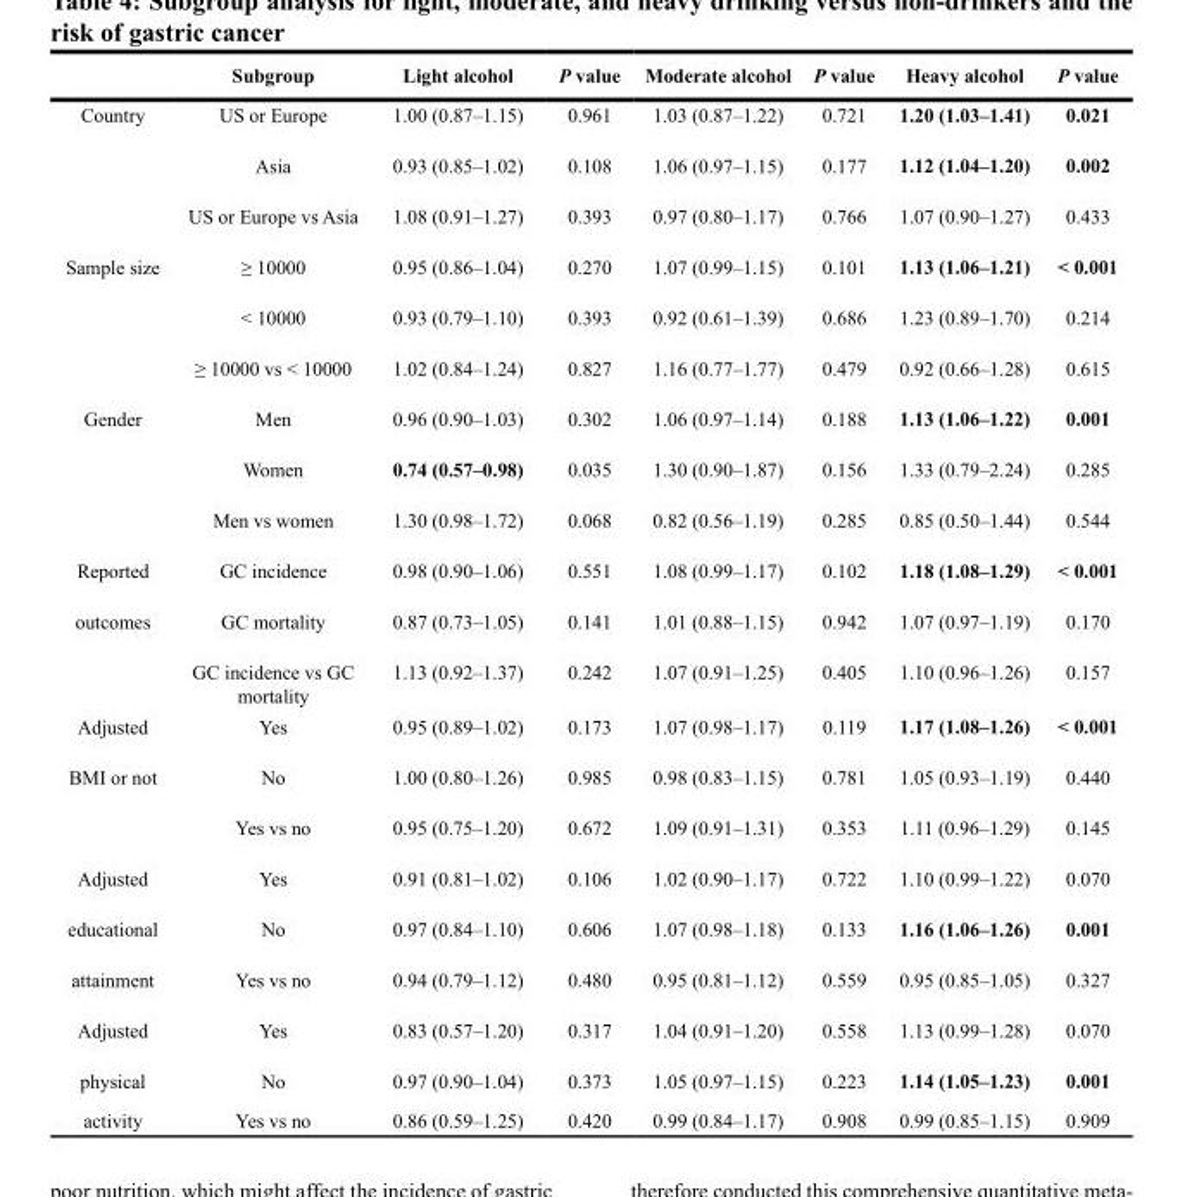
<table><thead><tr><td></td><td>Subgroup</td><td>Light alcohol</td><td>P value</td><td>Moderate alcohol</td><td>P value</td><td>Heavy alcohol</td><td>P value</td></tr></thead><tbody><tr><td rowspan="3">Country</td><td>US or Europe</td><td>1.00 (0.87–1.15)</td><td>0.961</td><td>1.03 (0.87–1.22)</td><td>0.721</td><td>1.20 (1.03–1.41)</td><td>0.021</td></tr><tr><td>Asia</td><td>0.93 (0.85–1.02)</td><td>0.108</td><td>1.06 (0.97–1.15)</td><td>0.177</td><td>1.12 (1.04–1.20)</td><td>0.002</td></tr><tr><td>US or Europe vs Asia</td><td>1.08 (0.91–1.27)</td><td>0.393</td><td>0.97 (0.80–1.17)</td><td>0.766</td><td>1.07 (0.90–1.27)</td><td>0.433</td></tr><tr><td rowspan="3">Sample size</td><td>≥ 10000</td><td>0.95 (0.86–1.04)</td><td>0.270</td><td>1.07 (0.99–1.15)</td><td>0.101</td><td>1.13 (1.06–1.21)</td><td>&lt; 0.001</td></tr><tr><td>&lt; 10000</td><td>0.93 (0.79–1.10)</td><td>0.393</td><td>0.92 (0.61–1.39)</td><td>0.686</td><td>1.23 (0.89–1.70)</td><td>0.214</td></tr><tr><td>≥ 10000 vs &lt; 10000</td><td>1.02 (0.84–1.24)</td><td>0.827</td><td>1.16 (0.77–1.77)</td><td>0.479</td><td>0.92 (0.66–1.28)</td><td>0.615</td></tr><tr><td rowspan="3">Gender</td><td>Men</td><td>0.96 (0.90–1.03)</td><td>0.302</td><td>1.06 (0.97–1.14)</td><td>0.188</td><td>1.13 (1.06–1.22)</td><td>0.001</td></tr><tr><td>Women</td><td>0.74 (0.57–0.98)</td><td>0.035</td><td>1.30 (0.90–1.87)</td><td>0.156</td><td>1.33 (0.79–2.24)</td><td>0.285</td></tr><tr><td>Men vs women</td><td>1.30 (0.98–1.72)</td><td>0.068</td><td>0.82 (0.56–1.19)</td><td>0.285</td><td>0.85 (0.50–1.44)</td><td>0.544</td></tr><tr><td>Reported</td><td>GC incidence</td><td>0.98 (0.90–1.06)</td><td>0.551</td><td>1.08 (0.99–1.17)</td><td>0.102</td><td>1.18 (1.08–1.29)</td><td>&lt; 0.001</td></tr><tr><td rowspan="2">outcomes</td><td>GC mortality</td><td>0.87 (0.73–1.05)</td><td>0.141</td><td>1.01 (0.88–1.15)</td><td>0.942</td><td>1.07 (0.97–1.19)</td><td>0.170</td></tr><tr><td>GC incidence vs GC mortality</td><td>1.13 (0.92–1.37)</td><td>0.242</td><td>1.07 (0.91–1.25)</td><td>0.405</td><td>1.10 (0.96–1.26)</td><td>0.157</td></tr><tr><td>Adjusted</td><td>Yes</td><td>0.95 (0.89–1.02)</td><td>0.173</td><td>1.07 (0.98–1.17)</td><td>0.119</td><td>1.17 (1.08–1.26)</td><td>&lt; 0.001</td></tr><tr><td rowspan="2">BMI or not</td><td>No</td><td>1.00 (0.80–1.26)</td><td>0.985</td><td>0.98 (0.83–1.15)</td><td>0.781</td><td>1.05 (0.93–1.19)</td><td>0.440</td></tr><tr><td>Yes vs no</td><td>0.95 (0.75–1.20)</td><td>0.672</td><td>1.09 (0.91–1.31)</td><td>0.353</td><td>1.11 (0.96–1.29)</td><td>0.145</td></tr><tr><td>Adjusted</td><td>Yes</td><td>0.91 (0.81–1.02)</td><td>0.106</td><td>1.02 (0.90–1.17)</td><td>0.722</td><td>1.10 (0.99–1.22)</td><td>0.070</td></tr><tr><td>educational</td><td>No</td><td>0.97 (0.84–1.10)</td><td>0.606</td><td>1.07 (0.98–1.18)</td><td>0.133</td><td>1.16 (1.06–1.26)</td><td>0.001</td></tr><tr><td>attainment</td><td>Yes vs no</td><td>0.94 (0.79–1.12)</td><td>0.480</td><td>0.95 (0.81–1.12)</td><td>0.559</td><td>0.95 (0.85–1.05)</td><td>0.327</td></tr><tr><td>Adjusted</td><td>Yes</td><td>0.83 (0.57–1.20)</td><td>0.317</td><td>1.04 (0.91–1.20)</td><td>0.558</td><td>1.13 (0.99–1.28)</td><td>0.070</td></tr><tr><td>physical</td><td>No</td><td>0.97 (0.90–1.04)</td><td>0.373</td><td>1.05 (0.97–1.15)</td><td>0.223</td><td>1.14 (1.05–1.23)</td><td>0.001</td></tr><tr><td>activity</td><td>Yes vs no</td><td>0.86 (0.59–1.25)</td><td>0.420</td><td>0.99 (0.84–1.17)</td><td>0.908</td><td>0.99 (0.85–1.15)</td><td>0.909</td></tr></tbody></table>